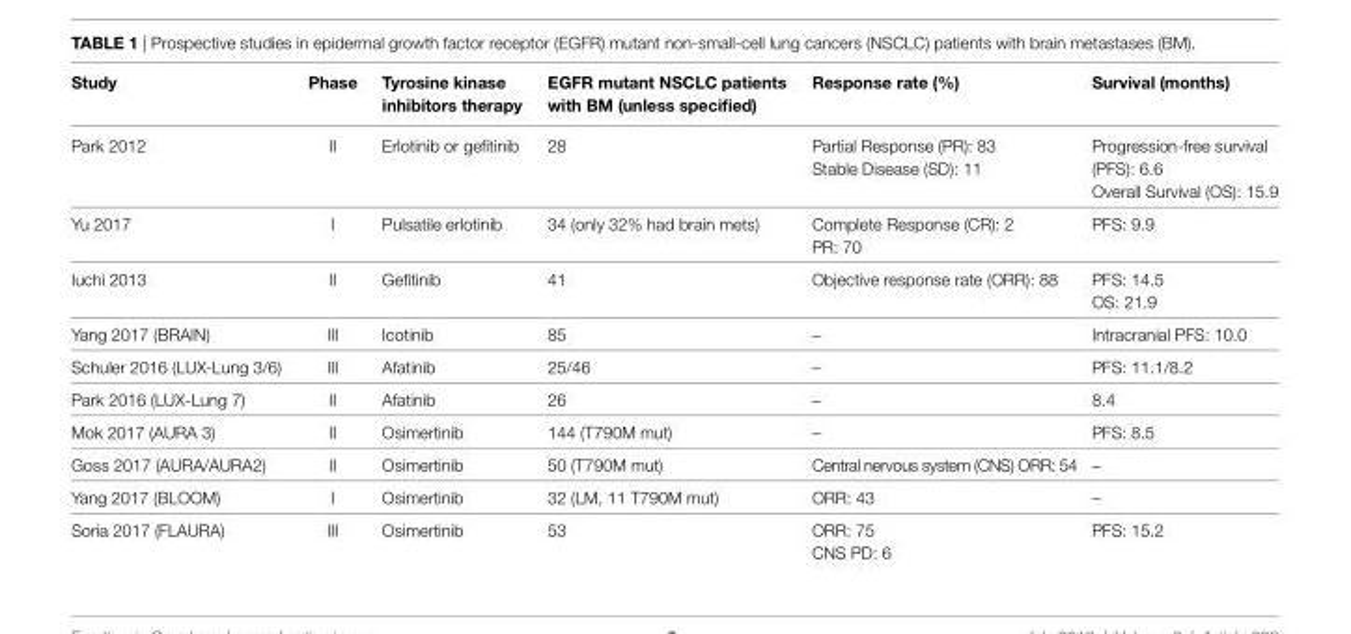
<table><thead><tr><td>Study</td><td>Phase</td><td>Tyrosine kinase inhibitors therapy</td><td>eGFR mutant NSCLC patients with BM (unless specified)</td><td>Response rate (%)</td><td>Survival (months)</td></tr></thead><tbody><tr><td>Park 2012</td><td>II</td><td>Erlotinib or gefitinib</td><td>28</td><td>Partial Response (PR): 83 Stable Disease (SD): 11</td><td>Progression-free survival (PFS): 6.6 Overall Survival (OS): 15.9</td></tr><tr><td>Yu 2017</td><td>I</td><td>Pulsatile erlotinib</td><td>34 (only 32% had brain mets)</td><td>Complete Response (CR): 2 PR: 70</td><td>PFS: 9.9</td></tr><tr><td>Iuchi 2013</td><td>II</td><td>Gefitinib</td><td>41</td><td>Objective response rate (ORR): 88</td><td>PFS: 14.5 OS: 21.9</td></tr><tr><td>Yang 2017 (BRAIN)</td><td>III</td><td>Icotinib</td><td>85</td><td>–</td><td>Intracranial PFS: 10.0</td></tr><tr><td>Schuler 2016 (LUX-Lung 3/6)</td><td>III</td><td>Afatinib</td><td>25/46</td><td>–</td><td>PFS: 11.1/8.2</td></tr><tr><td>Park 2016 (LUX-Lung 7)</td><td>II</td><td>Afatinib</td><td>26</td><td>–</td><td>8.4</td></tr><tr><td>Mok 2017 (AURA 3)</td><td>II</td><td>Osimertinib</td><td>144 (T790M mut)</td><td>–</td><td>PFS: 8.5</td></tr><tr><td>Goss 2017 (AURA/AURA2)</td><td>II</td><td>Osimertinib</td><td>50 (T790M mut)</td><td>Central nervous system (CNS) ORR: 54</td><td>–</td></tr><tr><td>Yang 2017 (BLOOM)</td><td>I</td><td>Osimertinib</td><td>32 (LM, 11 T790M mut)</td><td>ORR: 43</td><td>–</td></tr><tr><td>Soria 2017 (FLAURA)</td><td>III</td><td>Osimertinib</td><td>53</td><td>ORR: 75 CNS PD: 6</td><td>PFS: 15.2</td></tr></tbody></table>